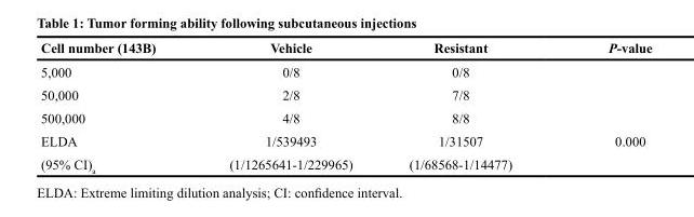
<table><thead><tr><td>Cell number (143B)</td><td>Vehicle</td><td>Resistant</td><td>P-value</td></tr></thead><tbody><tr><td>5,000</td><td>0/8</td><td>0/8</td><td></td></tr><tr><td>50,000</td><td>2/8</td><td>7/8</td><td></td></tr><tr><td>500,000</td><td>4/8</td><td>8/8</td><td></td></tr><tr><td>ELDA</td><td>1/539493</td><td>1/31507</td><td>0.000</td></tr><tr><td>(95% CI)<sub>a</sub></td><td>(1/1265641-1/229965)</td><td>(1/68568-1/14477)</td><td></td></tr></tbody></table>